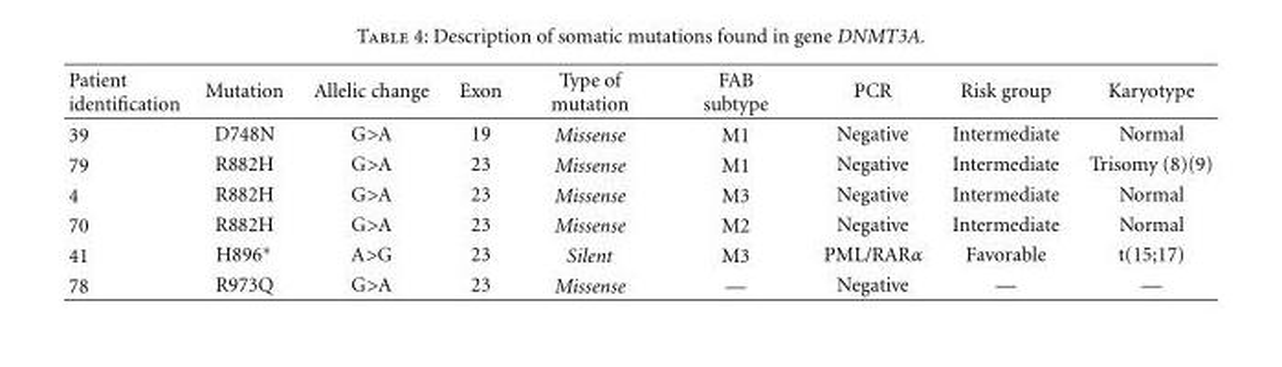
<table><thead><tr><td>Patient identification</td><td>Mutation</td><td>Allelic change</td><td>Exon</td><td>Type of mutation</td><td>FAB subtype</td><td>PCR</td><td>Risk group</td><td>Karyotype</td></tr></thead><tbody><tr><td>39</td><td>D748N</td><td>G&gt;A</td><td>19</td><td>Missense</td><td>M1</td><td>Negative</td><td>Intermediate</td><td>Normal</td></tr><tr><td>79</td><td>R882H</td><td>G&gt;A</td><td>23</td><td>Missense</td><td>M1</td><td>Negative</td><td>Intermediate</td><td>Trisomy (8)(9)</td></tr><tr><td>4</td><td>R882H</td><td>G&gt;A</td><td>23</td><td>Missense</td><td>M3</td><td>Negative</td><td>Intermediate</td><td>Normal</td></tr><tr><td>70</td><td>R882H</td><td>G&gt;A</td><td>23</td><td>Missense</td><td>M2</td><td>Negative</td><td>Intermediate</td><td>Normal</td></tr><tr><td>41</td><td>H896∗</td><td>A&gt;G</td><td>23</td><td>Silent</td><td>M3</td><td>PML/RARα</td><td>Favorable</td><td>t(15;17)</td></tr><tr><td>78</td><td>R973Q</td><td>G&gt;A</td><td>23</td><td>Missense</td><td>—</td><td>Negative</td><td>—</td><td>—</td></tr></tbody></table>